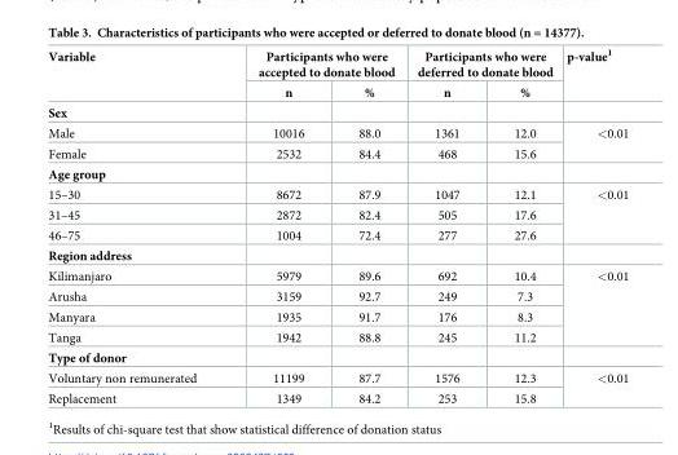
<table><thead><tr><td rowspan="2">Variable</td><td colspan="2">Participants who were accepted to donate blood</td><td colspan="2">Participants who were deferred to donate blood</td><td rowspan="2">p-value<sup>1</sup></td></tr><tr><td>n</td><td>%</td><td>n</td><td>%</td></tr></thead><tbody><tr><td colspan="6">Sex</td></tr><tr><td>Male</td><td>10016</td><td>88.0</td><td>1361</td><td>12.0</td><td rowspan="2">&lt;0.01</td></tr><tr><td>Female</td><td>2532</td><td>84.4</td><td>468</td><td>15.6</td></tr><tr><td colspan="6">Age group</td></tr><tr><td>15–30</td><td>8672</td><td>87.9</td><td>1047</td><td>12.1</td><td rowspan="3">&lt;0.01</td></tr><tr><td>31–45</td><td>2872</td><td>82.4</td><td>505</td><td>17.6</td></tr><tr><td>46–75</td><td>1004</td><td>72.4</td><td>277</td><td>27.6</td></tr><tr><td colspan="6">Region address</td></tr><tr><td>Kilimanjaro</td><td>5979</td><td>89.6</td><td>692</td><td>10.4</td><td rowspan="4">&lt;0.01</td></tr><tr><td>Arusha</td><td>3159</td><td>92.7</td><td>249</td><td>7.3</td></tr><tr><td>Manyara</td><td>1935</td><td>91.7</td><td>176</td><td>8.3</td></tr><tr><td>Tanga</td><td>1942</td><td>88.8</td><td>245</td><td>11.2</td></tr><tr><td colspan="6">Type of donor</td></tr><tr><td>Voluntary non remunerated</td><td>11199</td><td>87.7</td><td>1576</td><td>12.3</td><td rowspan="2">&lt;0.01</td></tr><tr><td>Replacement</td><td>1349</td><td>84.2</td><td>253</td><td>15.8</td></tr></tbody></table>